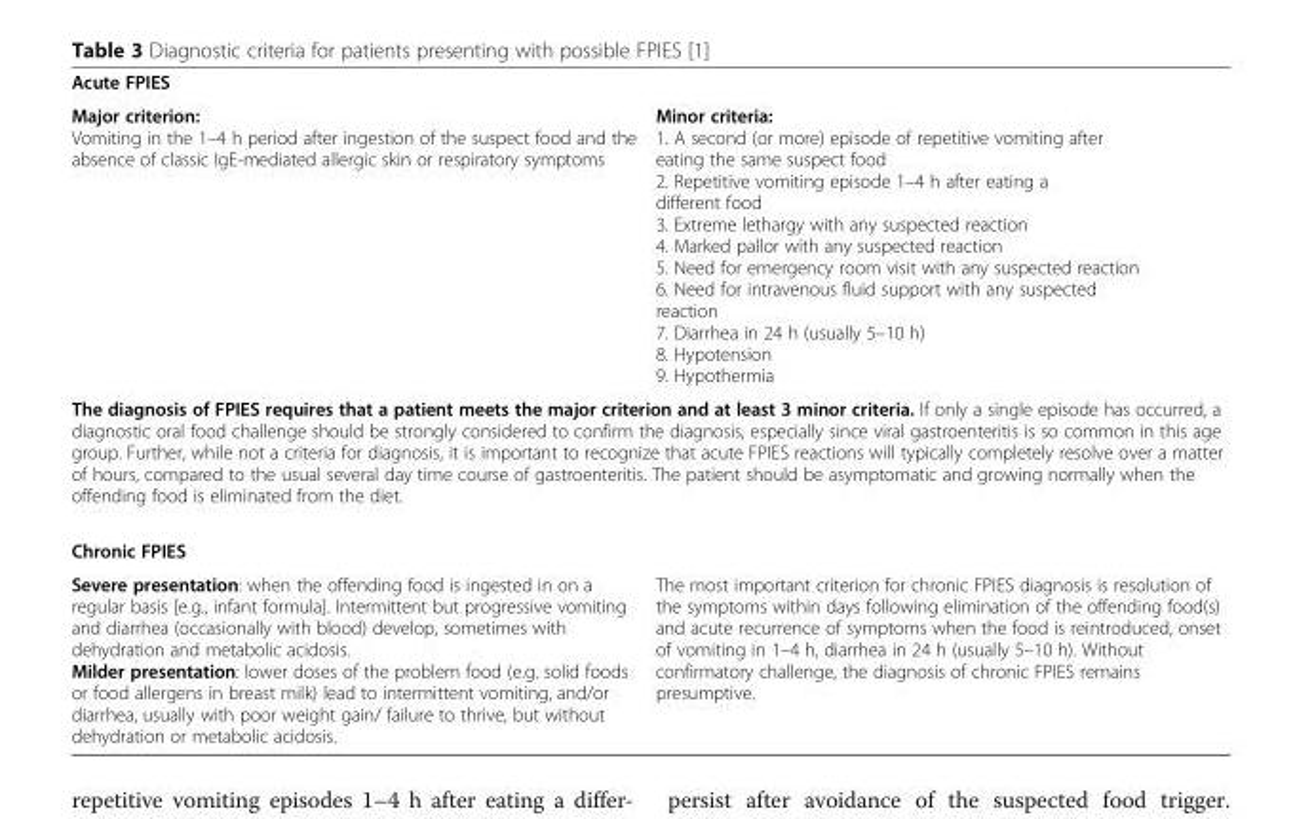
<table><tbody><tr><td colspan="2">Acute FPIES</td></tr><tr><td>Major criterion: Vomiting in the 1–4 h period after ingestion of the suspect food and the absence of classic IgE-mediated allergic skin or respiratory symptoms</td><td>Minor criteria: 1. A second (or more) episode of repetitive vomiting after eating the same suspect food 2. Repetitive vomiting episode 1–4 h after eating a different food 3. Extreme lethargy with any suspected reaction 4. Marked pallor with any suspected reaction 5. Need for emergency room visit with any suspected reaction 6. Need for intravenous fluid support with any suspected reaction 7. Diarrhea in 24 h (usually 5–10 h) 8. Hypotension 9. Hypothermia</td></tr><tr><td colspan="2">The diagnosis of FPIES requires that a patient meets the major criterion and at least 3 minor criteria. If only a single episode has occurred, a diagnostic oral food challenge should be strongly considered to confirm the diagnosis, especially since viral gastroenteritis is so common in this age group. Further, while not a criteria for diagnosis, it is important to recognize that acute FPIES reactions will typically completely resolve over a matter of hours, compared to the usual several day time course of gastroenteritis. The patient should be asymptomatic and growing normally when the offending food is eliminated from the diet.</td></tr><tr><td colspan="2">Chronic FPIES</td></tr><tr><td>Severe presentation: when the offending food is ingested in on a regular basis [e.g., infant formula]. Intermittent but progressive vomiting and diarrhea (occasionally with blood) develop, sometimes with dehydration and metabolic acidosis. Milder presentation: lower doses of the problem food (e.g. solid foods or food allergens in breast milk) lead to intermittent vomiting, and/or diarrhea, usually with poor weight gain/ failure to thrive, but without dehydration or metabolic acidosis.</td><td>The most important criterion for chronic FPIES diagnosis is resolution of the symptoms within days following elimination of the offending food(s) and acute recurrence of symptoms when the food is reintroduced, onset of vomiting in 1–4 h, diarrhea in 24 h (usually 5–10 h). Without confirmatory challenge, the diagnosis of chronic FPIES remains presumptive.</td></tr></tbody></table>